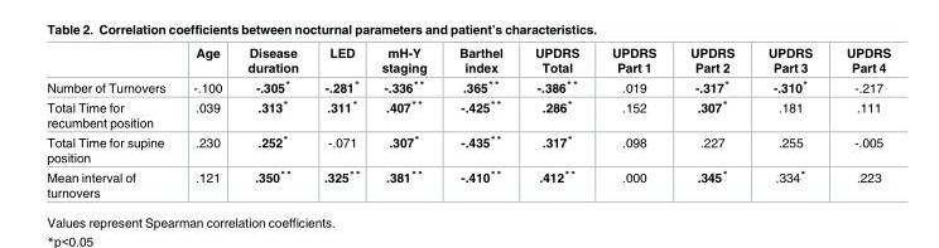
<table><thead><tr><td></td><td>Age</td><td>Disease duration</td><td>LED</td><td>mH-Y staging</td><td>Barthel index</td><td>UPDRS Total</td><td>UPDRS Part 1</td><td>UPDRS Part 2</td><td>UPDRS Part 3</td><td>UPDRS Part 4</td></tr></thead><tbody><tr><td>Number of Turnovers</td><td>-.100</td><td>-.305*</td><td>-.281*</td><td>-.336**</td><td>.365**</td><td>-.386**</td><td>.019</td><td>-.317*</td><td>-.310*</td><td>-.217</td></tr><tr><td>Total Time for recumbent position</td><td>.039</td><td>.313*</td><td>.311*</td><td>.407**</td><td>-.425**</td><td>.286*</td><td>.152</td><td>.307*</td><td>.181</td><td>.111</td></tr><tr><td>Total Time for supine position</td><td>.230</td><td>.252*</td><td>-.071</td><td>.307*</td><td>-.435**</td><td>.317*</td><td>.098</td><td>.227</td><td>.255</td><td>-.005</td></tr><tr><td>Mean interval of turnovers</td><td>.121</td><td>.350**</td><td>.325**</td><td>.381**</td><td>-.410**</td><td>.412**</td><td>.000</td><td>.345*</td><td>.334*</td><td>.223</td></tr></tbody></table>